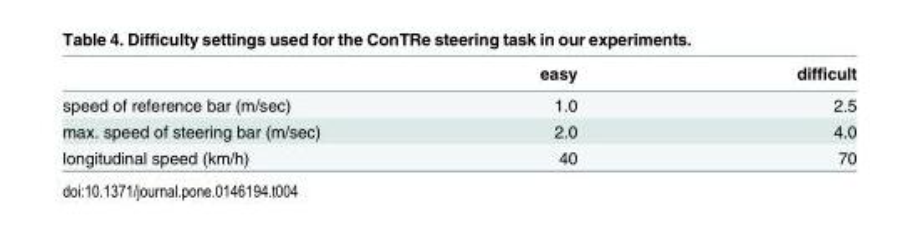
<table><thead><tr><td></td><td>easy</td><td>difficult</td></tr></thead><tbody><tr><td>speed of reference bar (m/sec)</td><td>1.0</td><td>2.5</td></tr><tr><td>max. speed of steering bar (m/sec)</td><td>2.0</td><td>4.0</td></tr><tr><td>longitudinal speed (km/h)</td><td>40</td><td>70</td></tr></tbody></table>